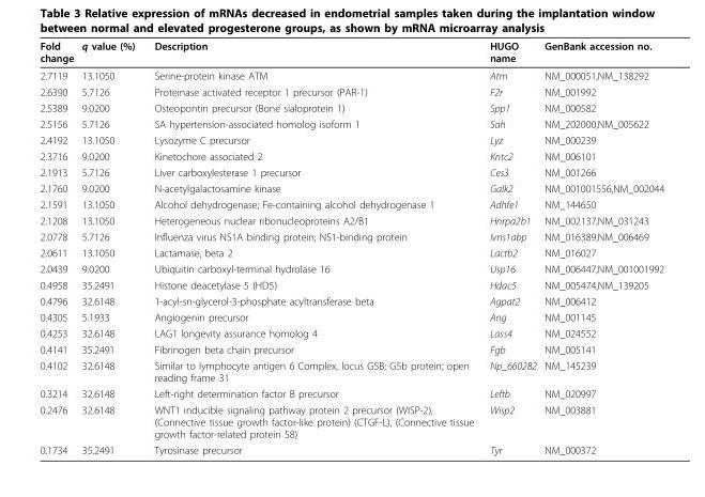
<table><thead><tr><td>Fold change</td><td>q value (%)</td><td>Description</td><td>HUGO name</td><td>GenBank accession no.</td></tr></thead><tbody><tr><td>2.7119</td><td>13.1050</td><td>Serine-protein kinase ATM</td><td>Atm</td><td>NM_000051,NM_138292</td></tr><tr><td>2.6390</td><td>5.7126</td><td>Proteinase activated receptor 1 precursor (PAR-1)</td><td>F2r</td><td>NM_001992</td></tr><tr><td>2.5389</td><td>9.0200</td><td>Osteopontin precursor (Bone sialoprotein 1)</td><td>Spp1</td><td>NM_000582</td></tr><tr><td>2.5156</td><td>5.7126</td><td>SA hypertension-associated homolog isoform 1</td><td>Sah</td><td>NM_202000,NM_005622</td></tr><tr><td>2.4192</td><td>13.1050</td><td>Lysozyme C precursor</td><td>Lyz</td><td>NM_000239</td></tr><tr><td>2.3716</td><td>9.0200</td><td>Kinetochore associated 2</td><td>Kntc2</td><td>NM_006101</td></tr><tr><td>2.1913</td><td>5.7126</td><td>Liver carboxylesterase 1 precursor</td><td>Ces3</td><td>NM_001266</td></tr><tr><td>2.1760</td><td>9.0200</td><td>N-acetylgalactosamine kinase</td><td>Galk2</td><td>NM_001001556,NM_002044</td></tr><tr><td>2.1591</td><td>13.1050</td><td>Alcohol dehydrogenase; Fe-containing alcohol dehydrogenase 1</td><td>Adhfe1</td><td>NM_144650</td></tr><tr><td>2.1208</td><td>13.1050</td><td>Heterogeneous nuclear ribonucleoproteins A2/B1</td><td>Hnrpa2b1</td><td>NM_002137,NM_031243</td></tr><tr><td>2.0778</td><td>5.7126</td><td>Influenza virus NS1A binding protein; NS1-binding protein</td><td>Ivns1abp</td><td>NM_016389,NM_006469</td></tr><tr><td>2.0611</td><td>13.1050</td><td>Lactamase, beta 2</td><td>Lactb2</td><td>NM_016027</td></tr><tr><td>2.0439</td><td>9.0200</td><td>Ubiquitin carboxyl-terminal hydrolase 16</td><td>Usp16</td><td>NM_006447,NM_001001992</td></tr><tr><td>0.4958</td><td>35.2491</td><td>Histone deacetylase 5 (HD5)</td><td>Hdac5</td><td>NM_005474,NM_139205</td></tr><tr><td>0.4796</td><td>32.6148</td><td>1-acyl-sn-glycerol-3-phosphate acyltransferase beta</td><td>Agpat2</td><td>NM_006412</td></tr><tr><td>0.4305</td><td>5.1933</td><td>Angiogenin precursor</td><td>Ang</td><td>NM_001145</td></tr><tr><td>0.4253</td><td>32.6148</td><td>LAG1 longevity assurance homolog 4</td><td>Lass4</td><td>NM_024552</td></tr><tr><td>0.4141</td><td>35.2491</td><td>Fibrinogen beta chain precursor</td><td>Fgb</td><td>NM_005141</td></tr><tr><td>0.4102</td><td>32.6148</td><td>Similar to lymphocyte antigen 6 Complex, locus G5B; G5b protein; open reading frame 31</td><td>Np_660282</td><td>NM_145239</td></tr><tr><td>0.3214</td><td>32.6148</td><td>Left-right determination factor B precursor</td><td>Leftb</td><td>NM_020997</td></tr><tr><td>0.2476</td><td>32.6148</td><td>WNT1 inducible signaling pathway protein 2 precursor (WISP-2), (Connective tissue growth factor-like protein) (CTGF-L), (Connective tissue growth factor-related protein 58)</td><td>Wisp2</td><td>NM_003881</td></tr><tr><td>0.1734</td><td>35.2491</td><td>Tyrosinase precursor</td><td>Tyr</td><td>NM_000372</td></tr></tbody></table>